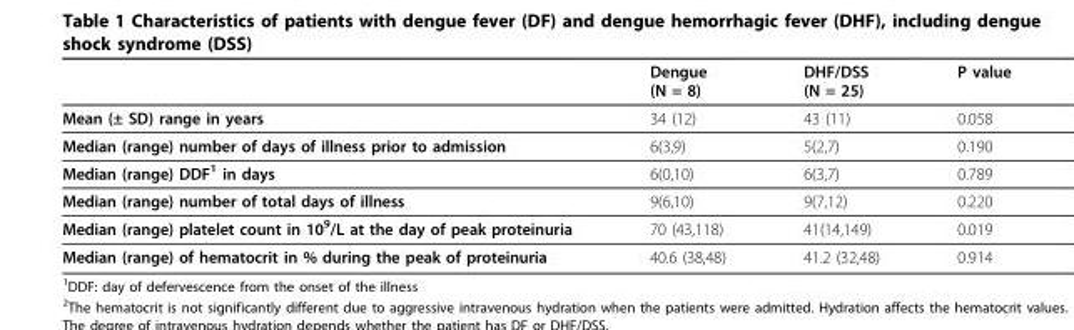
<table><thead><tr><td></td><td>Dengue (N = 8)</td><td>DHF/DSS (N = 25)</td><td>P value</td></tr></thead><tbody><tr><td>Mean (± SD) range in years</td><td>34 (12)</td><td>43 (11)</td><td>0.058</td></tr><tr><td>Median (range) number of days of illness prior to admission</td><td>6(3,9)</td><td>5(2,7)</td><td>0.190</td></tr><tr><td>Median (range) DDF<sup>1</sup> in days</td><td>6(0,10)</td><td>6(3,7)</td><td>0.789</td></tr><tr><td>Median (range) number of total days of illness</td><td>9(6,10)</td><td>9(7,12)</td><td>0.220</td></tr><tr><td>Median (range) platelet count in 10<sup>9</sup>/L at the day of peak proteinuria</td><td>70 (43,118)</td><td>41(14,149)</td><td>0.019</td></tr><tr><td>Median (range) of hematocrit in % during the peak of proteinuria</td><td>40.6 (38,48)</td><td>41.2 (32,48)</td><td>0.914</td></tr></tbody></table>